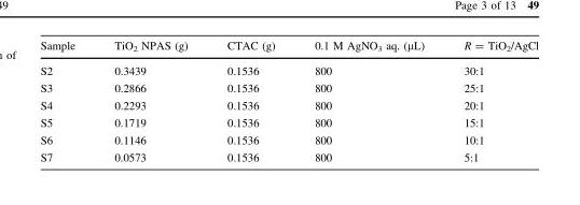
<table><thead><tr><td>Sample</td><td>TiO<sub>2</sub> NPAS (g)</td><td>CTAC (g)</td><td>0.1 M AgNO<sub>3</sub> aq. (µL)</td><td>R = TiO<sub>2</sub>/AgCl</td></tr></thead><tbody><tr><td>S2</td><td>0.3439</td><td>0.1536</td><td>800</td><td>30:1</td></tr><tr><td>S3</td><td>0.2866</td><td>0.1536</td><td>800</td><td>25:1</td></tr><tr><td>S4</td><td>0.2293</td><td>0.1536</td><td>800</td><td>20:1</td></tr><tr><td>S5</td><td>0.1719</td><td>0.1536</td><td>800</td><td>15:1</td></tr><tr><td>S6</td><td>0.1146</td><td>0.1536</td><td>800</td><td>10:1</td></tr><tr><td>S7</td><td>0.0573</td><td>0.1536</td><td>800</td><td>5:1</td></tr></tbody></table>